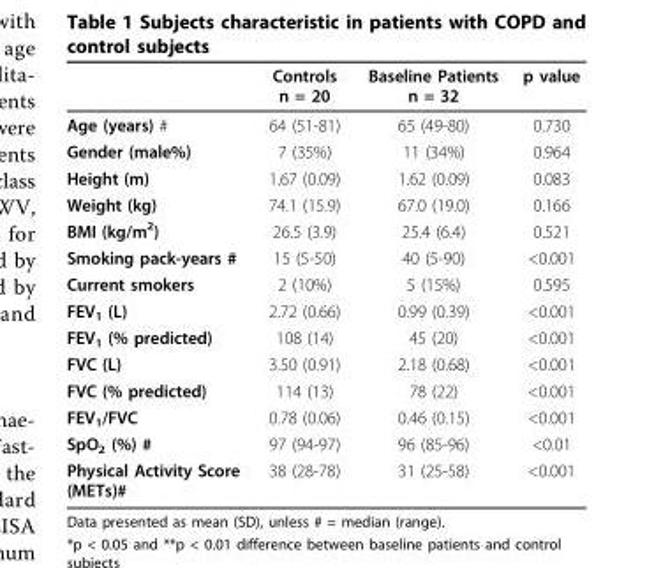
<table><thead><tr><td></td><td>Controls n = 20</td><td>Baseline Patients n = 32</td><td>p value</td></tr></thead><tbody><tr><td>Age (years) #</td><td>64 (51-81)</td><td>65 (49-80)</td><td>0.730</td></tr><tr><td>Gender (male%)</td><td>7 (35%)</td><td>11 (34%)</td><td>0.964</td></tr><tr><td>Height (m)</td><td>1.67 (0.09)</td><td>1.62 (0.09)</td><td>0.083</td></tr><tr><td>Weight (kg)</td><td>74.1 (15.9)</td><td>67.0 (19.0)</td><td>0.166</td></tr><tr><td>BMI (kg/m<sup>2</sup>)</td><td>26.5 (3.9)</td><td>25.4 (6.4)</td><td>0.521</td></tr><tr><td>Smoking pack-years #</td><td>15 (5-50)</td><td>40 (5-90)</td><td>&lt;0.001</td></tr><tr><td>Current smokers</td><td>2 (10%)</td><td>5 (15%)</td><td>0.595</td></tr><tr><td>FEV<sub>1</sub> (L)</td><td>2.72 (0.66)</td><td>0.99 (0.39)</td><td>&lt;0.001</td></tr><tr><td>FEV<sub>1</sub> (% predicted)</td><td>108 (14)</td><td>45 (20)</td><td>&lt;0.001</td></tr><tr><td>FVC (L)</td><td>3.50 (0.91)</td><td>2.18 (0.68)</td><td>&lt;0.001</td></tr><tr><td>FVC (% predicted)</td><td>114 (13)</td><td>78 (22)</td><td>&lt;0.001</td></tr><tr><td>FEV<sub>1</sub>/FVC</td><td>0.78 (0.06)</td><td>0.46 (0.15)</td><td>&lt;0.001</td></tr><tr><td>SpO<sub>2</sub> (%) #</td><td>97 (94-97)</td><td>96 (85-96)</td><td>&lt;0.01</td></tr><tr><td>Physical Activity Score (METs)#</td><td>38 (28-78)</td><td>31 (25-58)</td><td>&lt;0.001</td></tr></tbody></table>